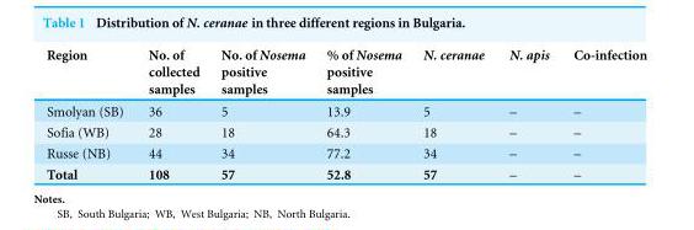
<table><thead><tr><td>Region</td><td>No. of collected samples</td><td>No. of Nosema positive samples</td><td>% of Nosema positive samples</td><td>N. ceranae</td><td>N. apis</td><td>Co-infection</td></tr></thead><tbody><tr><td>Smolyan (SB)</td><td>36</td><td>5</td><td>13.9</td><td>5</td><td>–</td><td>–</td></tr><tr><td>Sofia (WB)</td><td>28</td><td>18</td><td>64.3</td><td>18</td><td>–</td><td>–</td></tr><tr><td>Russe (NB)</td><td>44</td><td>34</td><td>77.2</td><td>34</td><td>–</td><td>–</td></tr><tr><td>Total</td><td>108</td><td>57</td><td>52.8</td><td>57</td><td>–</td><td>–</td></tr></tbody></table>